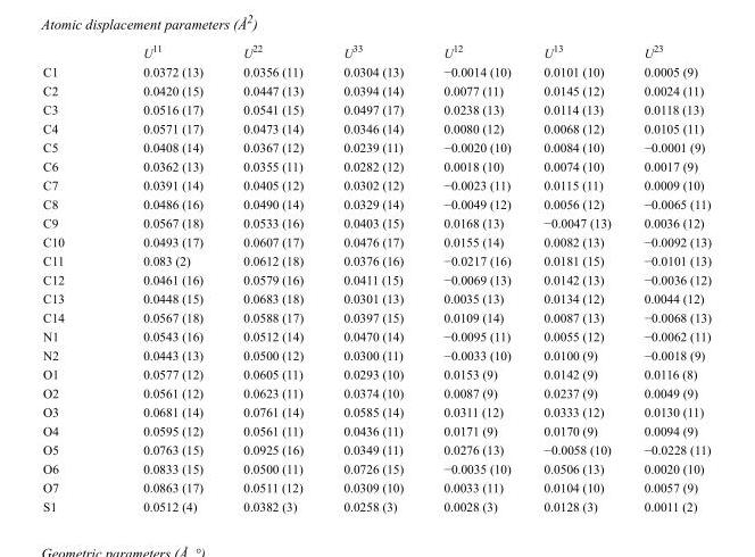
<table><thead><tr><td></td><td>U<sup>11</sup></td><td>U<sup>22</sup></td><td>U<sup>33</sup></td><td>U<sup>12</sup></td><td>U<sup>13</sup></td><td>U<sup>23</sup></td></tr></thead><tbody><tr><td>C1</td><td>0.0372 (13)</td><td>0.0356 (11)</td><td>0.0304 (13)</td><td>−0.0014 (10)</td><td>0.0101 (10)</td><td>0.0005 (9)</td></tr><tr><td>C2</td><td>0.0420 (15)</td><td>0.0447 (13)</td><td>0.0394 (14)</td><td>0.0077 (11)</td><td>0.0145 (12)</td><td>0.0024 (11)</td></tr><tr><td>C3</td><td>0.0516 (17)</td><td>0.0541 (15)</td><td>0.0497 (17)</td><td>0.0238 (13)</td><td>0.0114 (13)</td><td>0.0118 (13)</td></tr><tr><td>C4</td><td>0.0571 (17)</td><td>0.0473 (14)</td><td>0.0346 (14)</td><td>0.0080 (12)</td><td>0.0068 (12)</td><td>0.0105 (11)</td></tr><tr><td>C5</td><td>0.0408 (14)</td><td>0.0367 (12)</td><td>0.0239 (11)</td><td>−0.0020 (10)</td><td>0.0084 (10)</td><td>−0.0001 (9)</td></tr><tr><td>C6</td><td>0.0362 (13)</td><td>0.0355 (11)</td><td>0.0282 (12)</td><td>0.0018 (10)</td><td>0.0074 (10)</td><td>0.0017 (9)</td></tr><tr><td>C7</td><td>0.0391 (14)</td><td>0.0405 (12)</td><td>0.0302 (12)</td><td>−0.0023 (11)</td><td>0.0115 (11)</td><td>0.0009 (10)</td></tr><tr><td>C8</td><td>0.0486 (16)</td><td>0.0490 (14)</td><td>0.0329 (14)</td><td>−0.0049 (12)</td><td>0.0056 (12)</td><td>−0.0065 (11)</td></tr><tr><td>C9</td><td>0.0567 (18)</td><td>0.0533 (16)</td><td>0.0403 (15)</td><td>0.0168 (13)</td><td>−0.0047 (13)</td><td>0.0036 (12)</td></tr><tr><td>C10</td><td>0.0493 (17)</td><td>0.0607 (17)</td><td>0.0476 (17)</td><td>0.0155 (14)</td><td>0.0082 (13)</td><td>−0.0092 (13)</td></tr><tr><td>C11</td><td>0.083 (2)</td><td>0.0612 (18)</td><td>0.0376 (16)</td><td>−0.0217 (16)</td><td>0.0181 (15)</td><td>−0.0101 (13)</td></tr><tr><td>C12</td><td>0.0461 (16)</td><td>0.0579 (16)</td><td>0.0411 (15)</td><td>−0.0069 (13)</td><td>0.0142 (13)</td><td>−0.0036 (12)</td></tr><tr><td>C13</td><td>0.0448 (15)</td><td>0.0683 (18)</td><td>0.0301 (13)</td><td>0.0035 (13)</td><td>0.0134 (12)</td><td>0.0044 (12)</td></tr><tr><td>C14</td><td>0.0567 (18)</td><td>0.0588 (17)</td><td>0.0397 (15)</td><td>0.0109 (14)</td><td>0.0087 (13)</td><td>−0.0068 (13)</td></tr><tr><td>N1</td><td>0.0543 (16)</td><td>0.0512 (14)</td><td>0.0470 (14)</td><td>−0.0095 (11)</td><td>0.0055 (12)</td><td>−0.0062 (11)</td></tr><tr><td>N2</td><td>0.0443 (13)</td><td>0.0500 (12)</td><td>0.0300 (11)</td><td>−0.0033 (10)</td><td>0.0100 (9)</td><td>−0.0018 (9)</td></tr><tr><td>O1</td><td>0.0577 (12)</td><td>0.0605 (11)</td><td>0.0293 (10)</td><td>0.0153 (9)</td><td>0.0142 (9)</td><td>0.0116 (8)</td></tr><tr><td>O2</td><td>0.0561 (12)</td><td>0.0623 (11)</td><td>0.0374 (10)</td><td>0.0087 (9)</td><td>0.0237 (9)</td><td>0.0049 (9)</td></tr><tr><td>O3</td><td>0.0681 (14)</td><td>0.0761 (14)</td><td>0.0585 (14)</td><td>0.0311 (12)</td><td>0.0333 (12)</td><td>0.0130 (11)</td></tr><tr><td>O4</td><td>0.0595 (12)</td><td>0.0561 (11)</td><td>0.0436 (11)</td><td>0.0171 (9)</td><td>0.0170 (9)</td><td>0.0094 (9)</td></tr><tr><td>O5</td><td>0.0763 (15)</td><td>0.0925 (16)</td><td>0.0349 (11)</td><td>0.0276 (13)</td><td>−0.0058 (10)</td><td>−0.0228 (11)</td></tr><tr><td>O6</td><td>0.0833 (15)</td><td>0.0500 (11)</td><td>0.0726 (15)</td><td>−0.0035 (10)</td><td>0.0506 (13)</td><td>0.0020 (10)</td></tr><tr><td>O7</td><td>0.0863 (17)</td><td>0.0511 (12)</td><td>0.0309 (10)</td><td>0.0033 (11)</td><td>0.0104 (10)</td><td>0.0057 (9)</td></tr><tr><td>S1</td><td>0.0512 (4)</td><td>0.0382 (3)</td><td>0.0258 (3)</td><td>0.0028 (3)</td><td>0.0128 (3)</td><td>0.0011 (2)</td></tr></tbody></table>